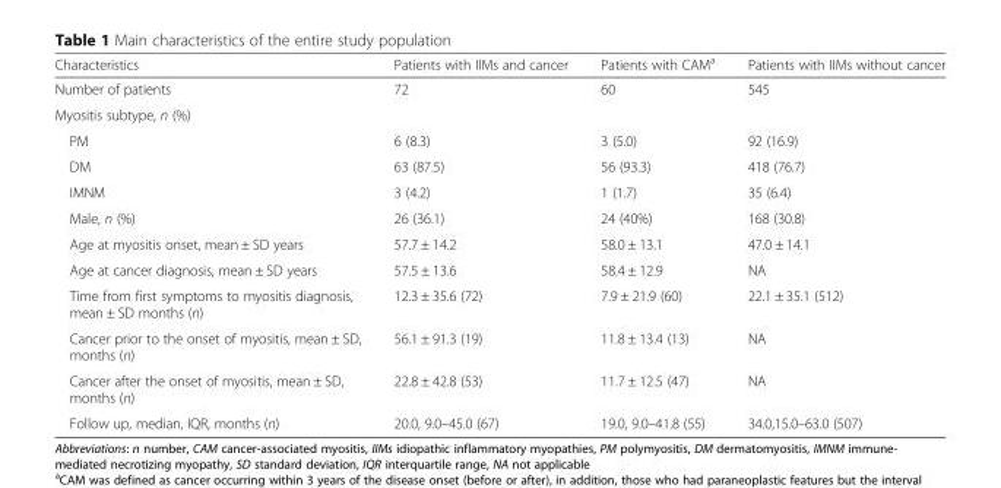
<table><thead><tr><td>Characteristics</td><td>Patients with IIMs and cancer</td><td>Patients with CAM<sup>a</sup></td><td>Patients with IIMs without cancer</td></tr></thead><tbody><tr><td>Number of patients</td><td>72</td><td>60</td><td>545</td></tr><tr><td colspan="4">Myositis subtype, n (%)</td></tr><tr><td>PM</td><td>6 (8.3)</td><td>3 (5.0)</td><td>92 (16.9)</td></tr><tr><td>DM</td><td>63 (87.5)</td><td>56 (93.3)</td><td>418 (76.7)</td></tr><tr><td>IMNM</td><td>3 (4.2)</td><td>1 (1.7)</td><td>35 (6.4)</td></tr><tr><td>Male, n (%)</td><td>26 (36.1)</td><td>24 (40%)</td><td>168 (30.8)</td></tr><tr><td>Age at myositis onset, mean ± SD years</td><td>57.7 ± 14.2</td><td>58.0 ± 13.1</td><td>47.0 ± 14.1</td></tr><tr><td>Age at cancer diagnosis, mean ± SD years</td><td>57.5 ± 13.6</td><td>58.4 ± 12.9</td><td>NA</td></tr><tr><td>Time from first symptoms to myositis diagnosis, mean ± SD months (n)</td><td>12.3 ± 35.6 (72)</td><td>7.9 ± 21.9 (60)</td><td>22.1 ± 35.1 (512)</td></tr><tr><td>Cancer prior to the onset of myositis, mean ± SD, months (n)</td><td>56.1 ± 91.3 (19)</td><td>11.8 ± 13.4 (13)</td><td>NA</td></tr><tr><td>Cancer after the onset of myositis, mean ± SD, months (n)</td><td>22.8 ± 42.8 (53)</td><td>11.7 ± 12.5 (47)</td><td>NA</td></tr><tr><td>Follow up, median, IQR, months (n)</td><td>20.0, 9.0–45.0 (67)</td><td>19.0, 9.0–41.8 (55)</td><td>34.0,15.0–63.0 (507)</td></tr></tbody></table>